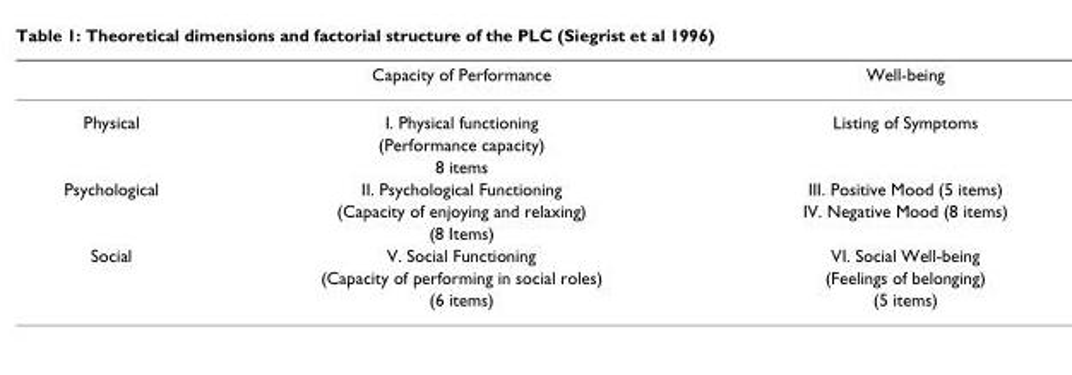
<table><thead><tr><td></td><td>Capacity of Performance</td><td>Well-being</td></tr></thead><tbody><tr><td rowspan="3">Physical</td><td>I. Physical functioning</td><td>Listing of Symptoms</td></tr><tr><td>(Performance capacity)</td><td></td></tr><tr><td>8 items</td><td></td></tr><tr><td rowspan="3">Psychological</td><td>II. Psychological Functioning</td><td>III. Positive Mood (5 items)</td></tr><tr><td>(Capacity of enjoying and relaxing)</td><td>IV. Negative Mood (8 items)</td></tr><tr><td>(8 Items)</td><td></td></tr><tr><td rowspan="3">Social</td><td>V. Social Functioning</td><td>VI. Social Well-being</td></tr><tr><td>(Capacity of performing in social roles)</td><td>(Feelings of belonging)</td></tr><tr><td>(6 items)</td><td>(5 items)</td></tr></tbody></table>